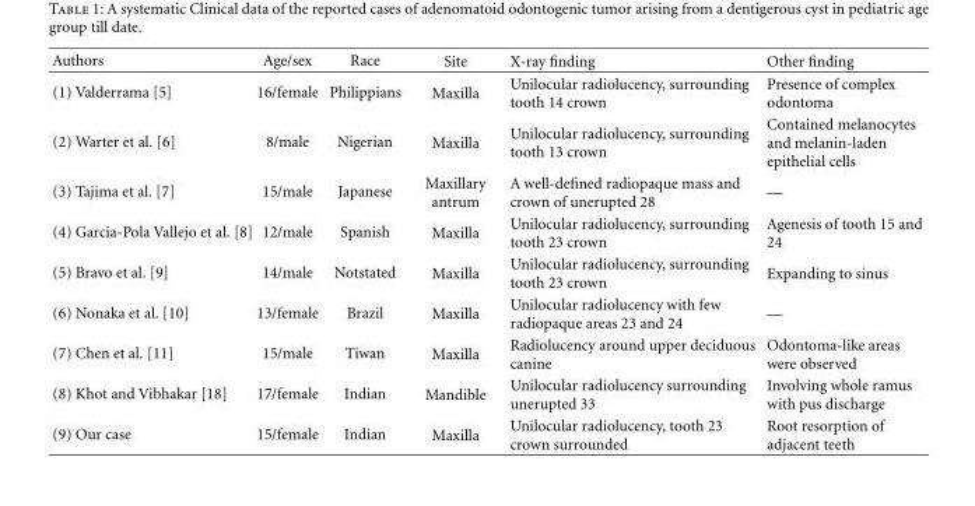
<table><thead><tr><td>Authors</td><td>Age/sex</td><td>Race</td><td>Site</td><td>X-ray finding</td><td>Other finding</td></tr></thead><tbody><tr><td>(1) Valderrama [5]</td><td>16/female</td><td>Philippians</td><td>Maxilla</td><td>Unilocular radiolucency, surrounding tooth 14 crown</td><td>Presence of complex odontoma</td></tr><tr><td>(2) Warter et al. [6]</td><td>8/male</td><td>Nigerian</td><td>Maxilla</td><td>Unilocular radiolucency, surrounding tooth 13 crown</td><td>Contained melanocytes and melanin-laden epithelial cells</td></tr><tr><td>(3) Tajima et al. [7]</td><td>15/male</td><td>Japanese</td><td>Maxillary antrum</td><td>A well-defined radiopaque mass and crown of unerupted 28</td><td>—</td></tr><tr><td>(4) Garcia-Pola Vallejo et al. [8]</td><td>12/male</td><td>Spanish</td><td>Maxilla</td><td>Unilocular radiolucency, surrounding tooth 23 crown</td><td>Agenesis of tooth 15 and 24</td></tr><tr><td>(5) Bravo et al. [9]</td><td>14/male</td><td>Notstated</td><td>Maxilla</td><td>Unilocular radiolucency, surrounding tooth 23 crown</td><td>Expanding to sinus</td></tr><tr><td>(6) Nonaka et al. [10]</td><td>13/female</td><td>Brazil</td><td>Maxilla</td><td>Unilocular radiolucency with few radiopaque areas 23 and 24</td><td>—</td></tr><tr><td>(7) Chen et al. [11]</td><td>15/male</td><td>Tiwan</td><td>Maxilla</td><td>Radiolucency around upper deciduous canine</td><td>Odontoma-like areas were observed</td></tr><tr><td>(8) Khot and Vibhakar [18]</td><td>17/female</td><td>Indian</td><td>Mandible</td><td>Unilocular radiolucency surrounding unerupted 33</td><td>Involving whole ramus with pus discharge</td></tr><tr><td>(9) Our case</td><td>15/female</td><td>Indian</td><td>Maxilla</td><td>Unilocular radiolucency, tooth 23 crown surrounded</td><td>Root resorption of adjacent teeth</td></tr></tbody></table>